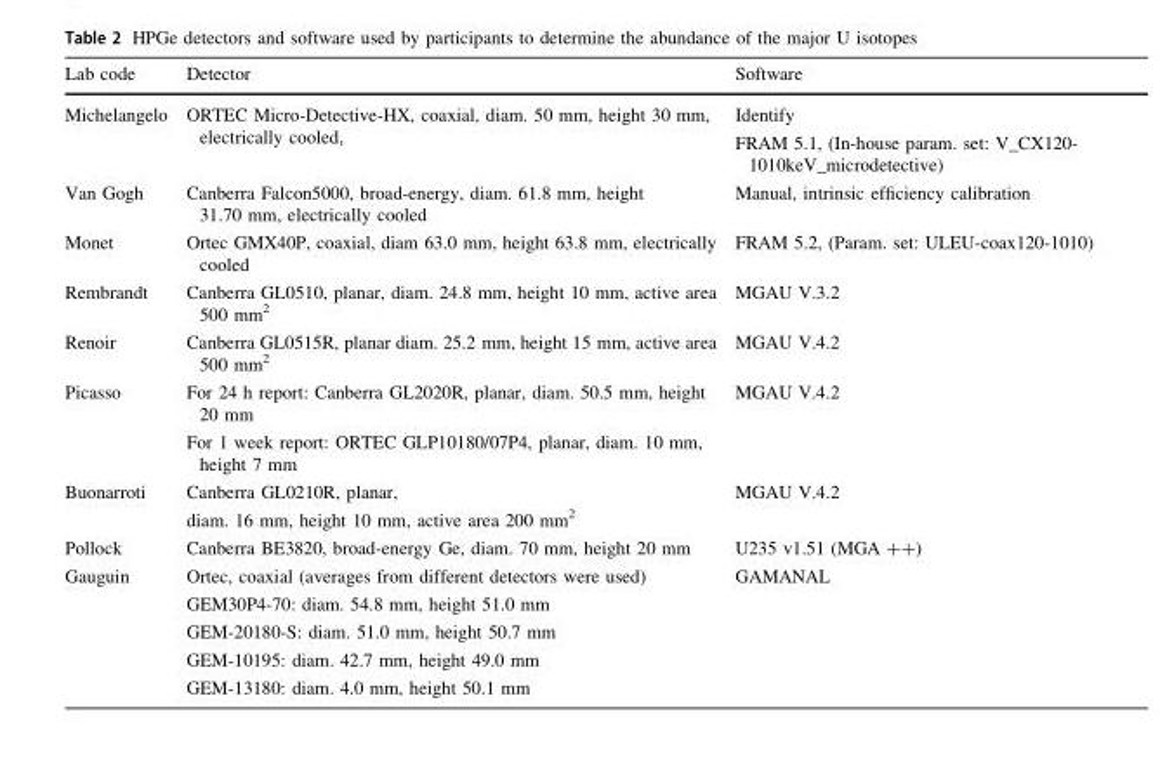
<table><thead><tr><td>Lab code</td><td>Detector</td><td>Software</td></tr></thead><tbody><tr><td>Michelangelo</td><td>ORTEC Micro-Detective-HX, coaxial, diam. 50 mm, height 30 mm, electrically cooled,</td><td>Identify FRAM 5.1, (In-house param. set: V_CX120- 1010keV_microdetective)</td></tr><tr><td>Van Gogh</td><td>Canberra Falcon5000, broad-energy, diam. 61.8 mm, height 31.70 mm, electrically cooled</td><td>Manual, intrinsic efficiency calibration</td></tr><tr><td>Monet</td><td>Ortec GMX40P, coaxial, diam 63.0 mm, height 63.8 mm, electrically cooled</td><td>FRAM 5.2, (Param. set: ULEU-coax120-1010)</td></tr><tr><td>Rembrandt</td><td>Canberra GL0510, planar, diam. 24.8 mm, height 10 mm, active area 500 mm<sup>2</sup></td><td>MGAU V.3.2</td></tr><tr><td>Renoir</td><td>Canberra GL0515R, planar diam. 25.2 mm, height 15 mm, active area 500 mm<sup>2</sup></td><td>MGAU V.4.2</td></tr><tr><td>Picasso</td><td>For 24 h report: Canberra GL2020R, planar, diam. 50.5 mm, height 20 mm For 1 week report: ORTEC GLP10180/07P4, planar, diam. 10 mm, height 7 mm</td><td>MGAU V.4.2</td></tr><tr><td>Buonarroti</td><td>Canberra GL0210R, planar, diam. 16 mm, height 10 mm, active area 200 mm<sup>2</sup></td><td>MGAU V.4.2</td></tr><tr><td>Pollock</td><td>Canberra BE3820, broad-energy Ge, diam. 70 mm, height 20 mm</td><td>U235 v1.51 (MGA ++)</td></tr><tr><td>Gauguin</td><td>Ortec, coaxial (averages from different detectors were used) GEM30P4-70: diam. 54.8 mm, height 51.0 mm GEM-20180-S: diam. 51.0 mm, height 50.7 mm GEM-10195: diam. 42.7 mm, height 49.0 mm GEM-13180: diam. 4.0 mm, height 50.1 mm</td><td>GAMANAL</td></tr></tbody></table>